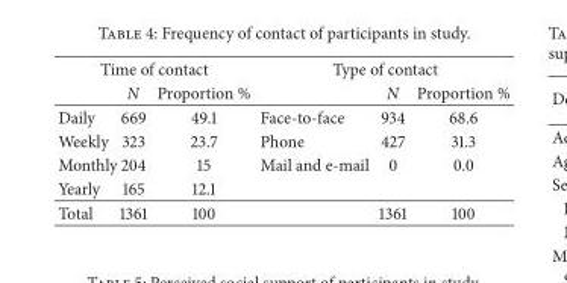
<table><thead><tr><td colspan="3">Time of contact</td><td colspan="3">Type of contact</td></tr><tr><td></td><td>N</td><td>Proportion %</td><td></td><td>N</td><td>Proportion %</td></tr></thead><tbody><tr><td>Daily</td><td>669</td><td>49.1</td><td>Face-to-face</td><td>934</td><td>68.6</td></tr><tr><td>Weekly</td><td>323</td><td>23.7</td><td>Phone</td><td>427</td><td>31.3</td></tr><tr><td>Monthly</td><td>204</td><td>15</td><td>Mail and e-mail</td><td>0</td><td>0.0</td></tr><tr><td>Yearly</td><td>165</td><td>12.1</td><td></td><td></td><td></td></tr><tr><td>Total</td><td>1361</td><td>100</td><td></td><td>1361</td><td>100</td></tr></tbody></table>